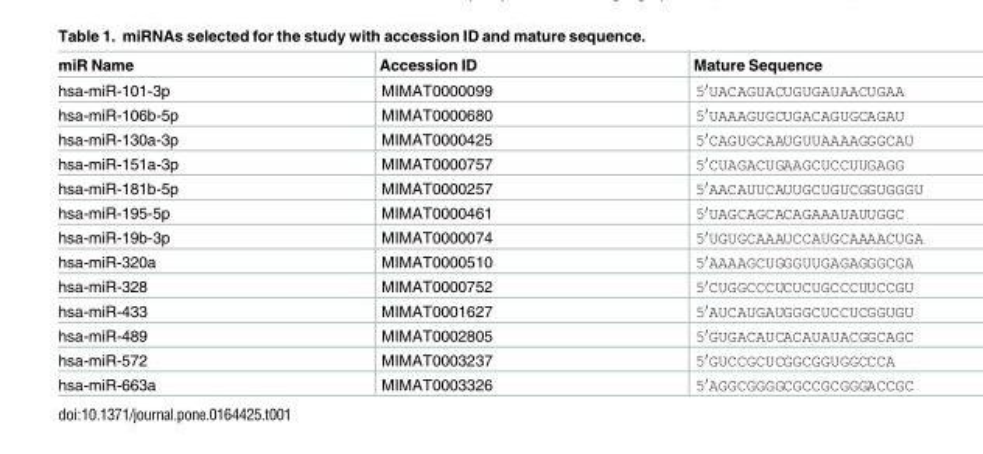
<table><thead><tr><td>miR Name</td><td>Accession ID</td><td>Mature Sequence</td></tr></thead><tbody><tr><td>hsa-miR-101-3p</td><td>MIMAT0000099</td><td>5′UACAGUACUGUGAUAACUGAA</td></tr><tr><td>hsa-miR-106b-5p</td><td>MIMAT0000680</td><td>5′UAAAGUGCUGACAGUGCAGAU</td></tr><tr><td>hsa-miR-130a-3p</td><td>MIMAT0000425</td><td>5′CAGUGCAAUGUUAAAAGGGCAU</td></tr><tr><td>hsa-miR-151a-3p</td><td>MIMAT0000757</td><td>5′CUAGACUGAAGCUCCUUGAGG</td></tr><tr><td>hsa-miR-181b-5p</td><td>MIMAT0000257</td><td>5′AACAUUCAUUGCUGUCGGUGGGU</td></tr><tr><td>hsa-miR-195-5p</td><td>MIMAT0000461</td><td>5′UAGCAGCACAGAAAUAUUGGC</td></tr><tr><td>hsa-miR-19b-3p</td><td>MIMAT0000074</td><td>5′UGUGCAAAUCCAUGCAAAACUGA</td></tr><tr><td>hsa-miR-320a</td><td>MIMAT0000510</td><td>5′AAAAGCUGGGUUGAGAGGGCGA</td></tr><tr><td>hsa-miR-328</td><td>MIMAT0000752</td><td>5′CUGGCCCUCUCUGCCCUUCCGU</td></tr><tr><td>hsa-miR-433</td><td>MIMAT0001627</td><td>5′AUCAUGAUGGGCUCCUCGGUGU</td></tr><tr><td>hsa-miR-489</td><td>MIMAT0002805</td><td>5′GUGACAUCACAUAUACGGCAGC</td></tr><tr><td>hsa-miR-572</td><td>MIMAT0003237</td><td>5′GUCCGCUCGGCGGUGGCCCA</td></tr><tr><td>hsa-miR-663a</td><td>MIMAT0003326</td><td>5′AGGCGGGGCGCCGCGGGACCGC</td></tr></tbody></table>